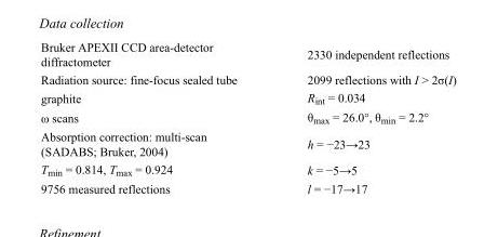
<table><tbody><tr><td>Bruker APEXII CCD area-detector diffractometer</td><td>2330 independent reflections</td></tr><tr><td>Radiation source: fine-focus sealed tube</td><td>2099 reflections with I &gt; 2σ(I)</td></tr><tr><td>graphite</td><td>R<sub>int</sub> = 0.034</td></tr><tr><td>ω scans</td><td>θ<sub>max</sub> = 26.0°, θ<sub>min</sub> = 2.2°</td></tr><tr><td>Absorption correction: multi-scan (SADABS; Bruker, 2004)</td><td>h = −23→23</td></tr><tr><td>T<sub>min</sub> = 0.814, T<sub>max</sub> = 0.924</td><td>k = −5→5</td></tr><tr><td>9756 measured reflections</td><td>l = −17→17</td></tr></tbody></table>